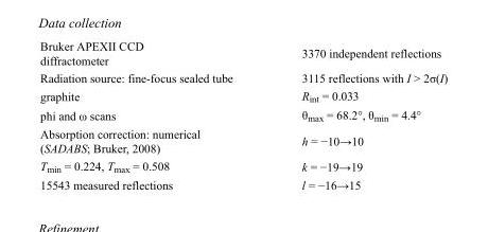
<table><tbody><tr><td>Bruker APEXII CCD diffractometer</td><td>3370 independent reflections</td></tr><tr><td>Radiation source: fine-focus sealed tube</td><td>3115 reflections with I &gt; 2σ(I)</td></tr><tr><td>graphite</td><td>R<sub>int</sub> = 0.033</td></tr><tr><td>phi and ω scans</td><td>θ<sub>max</sub> = 68.2°, θ<sub>min</sub> = 4.4°</td></tr><tr><td>Absorption correction: numerical (SADABS; Bruker, 2008)</td><td>h = −10→10</td></tr><tr><td>T<sub>min</sub> = 0.224, T<sub>max</sub> = 0.508</td><td>k = −19→19</td></tr><tr><td>15543 measured reflections</td><td>l = −16→15</td></tr></tbody></table>